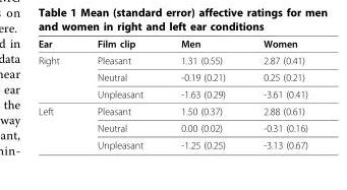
<table><thead><tr><td>Ear</td><td>Film clip</td><td>Men</td><td>Women</td></tr></thead><tbody><tr><td rowspan="3">Right</td><td>Pleasant</td><td>1.31 (0.55)</td><td>2.87 (0.41)</td></tr><tr><td>Neutral</td><td>-0.19 (0.21)</td><td>0.25 (0.21)</td></tr><tr><td>Unpleasant</td><td>-1.63 (0.29)</td><td>-3.61 (0.41)</td></tr><tr><td rowspan="3">Left</td><td>Pleasant</td><td>1.50 (0.37)</td><td>2.88 (0.61)</td></tr><tr><td>Neutral</td><td>0.00 (0.02)</td><td>-0.31 (0.16)</td></tr><tr><td>Unpleasant</td><td>-1.25 (0.25)</td><td>-3.13 (0.67)</td></tr></tbody></table>